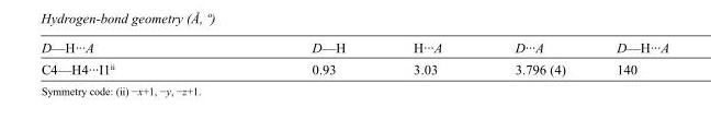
<table><tbody><tr><td>D—H···A</td><td>D—H</td><td>H···A</td><td>D···A</td><td>D—H···A</td></tr><tr><td>C4—H4···I1<sup>ii</sup></td><td>0.93</td><td>3.03</td><td>3.796 (4)</td><td>140</td></tr></tbody></table>